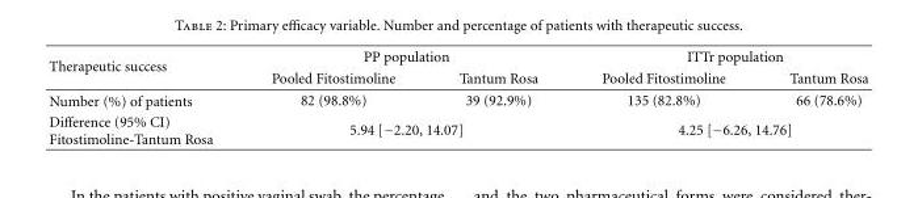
<table><thead><tr><td rowspan="2">Therapeutic success</td><td colspan="2">PP population</td><td colspan="2">ITTr population</td></tr><tr><td>Pooled Fitostimoline</td><td>Tantum Rosa</td><td>Pooled Fitostimoline</td><td>Tantum Rosa</td></tr></thead><tbody><tr><td>Number (%) of patients</td><td>82 (98.8%)</td><td>39 (92.9%)</td><td>135 (82.8%)</td><td>66 (78.6%)</td></tr><tr><td>Difference (95% CI) Fitostimoline-Tantum Rosa</td><td colspan="2">5.94 [−2.20, 14.07]</td><td colspan="2">4.25 [−6.26, 14.76]</td></tr></tbody></table>